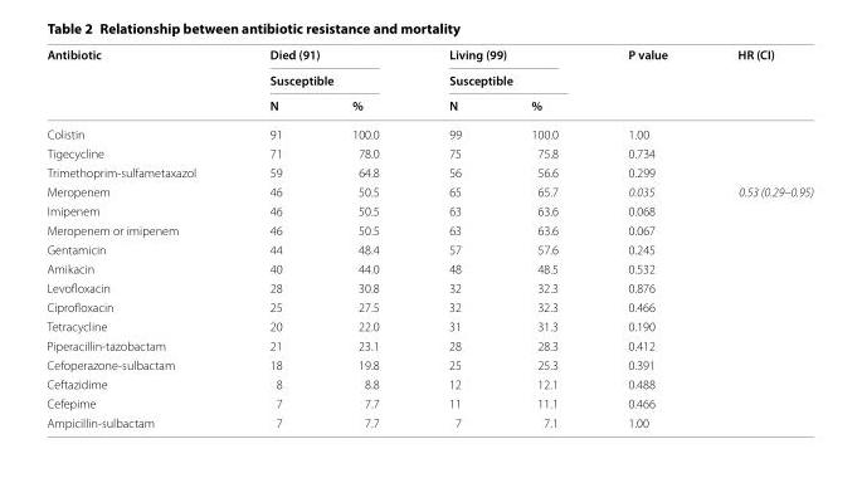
<table><thead><tr><td rowspan="3">Antibiotic</td><td rowspan="2" colspan="2">Died (91) Susceptible</td><td rowspan="2" colspan="2">Living (99) Susceptible</td><td rowspan="3">P value</td><td rowspan="3">HR (CI)</td></tr><tr></tr><tr><td>N</td><td>%</td><td>N</td><td>%</td></tr></thead><tbody><tr><td>Colistin</td><td>91</td><td>100.0</td><td>99</td><td>100.0</td><td>1.00</td><td></td></tr><tr><td>Tigecycline</td><td>71</td><td>78.0</td><td>75</td><td>75.8</td><td>0.734</td><td></td></tr><tr><td>Trimethoprim-sulfametaxazol</td><td>59</td><td>64.8</td><td>56</td><td>56.6</td><td>0.299</td><td></td></tr><tr><td>Meropenem</td><td>46</td><td>50.5</td><td>65</td><td>65.7</td><td>0.035</td><td>0.53 (0.29–0.95)</td></tr><tr><td>Imipenem</td><td>46</td><td>50.5</td><td>63</td><td>63.6</td><td>0.068</td><td></td></tr><tr><td>Meropenem or imipenem</td><td>46</td><td>50.5</td><td>63</td><td>63.6</td><td>0.067</td><td></td></tr><tr><td>Gentamicin</td><td>44</td><td>48.4</td><td>57</td><td>57.6</td><td>0.245</td><td></td></tr><tr><td>Amikacin</td><td>40</td><td>44.0</td><td>48</td><td>48.5</td><td>0.532</td><td></td></tr><tr><td>Levofloxacin</td><td>28</td><td>30.8</td><td>32</td><td>32.3</td><td>0.876</td><td></td></tr><tr><td>Ciprofloxacin</td><td>25</td><td>27.5</td><td>32</td><td>32.3</td><td>0.466</td><td></td></tr><tr><td>Tetracycline</td><td>20</td><td>22.0</td><td>31</td><td>31.3</td><td>0.190</td><td></td></tr><tr><td>Piperacillin-tazobactam</td><td>21</td><td>23.1</td><td>28</td><td>28.3</td><td>0.412</td><td></td></tr><tr><td>Cefoperazone-sulbactam</td><td>18</td><td>19.8</td><td>25</td><td>25.3</td><td>0.391</td><td></td></tr><tr><td>Ceftazidime</td><td>8</td><td>8.8</td><td>12</td><td>12.1</td><td>0.488</td><td></td></tr><tr><td>Cefepime</td><td>7</td><td>7.7</td><td>11</td><td>11.1</td><td>0.466</td><td></td></tr><tr><td>Ampicillin-sulbactam</td><td>7</td><td>7.7</td><td>7</td><td>7.1</td><td>1.00</td><td></td></tr></tbody></table>